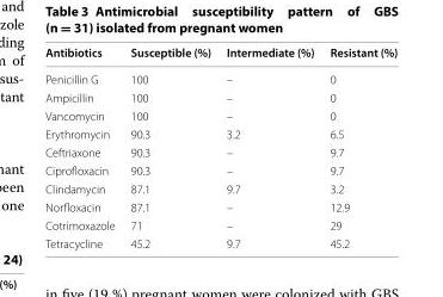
<table><thead><tr><td>Antibiotics</td><td>Susceptible (%)</td><td>Intermediate (%)</td><td>Resistant (%)</td></tr></thead><tbody><tr><td>Penicillin G</td><td>100</td><td>–</td><td>0</td></tr><tr><td>Ampicillin</td><td>100</td><td>–</td><td>0</td></tr><tr><td>Vancomycin</td><td>100</td><td>–</td><td>0</td></tr><tr><td>Erythromycin</td><td>90.3</td><td>3.2</td><td>6.5</td></tr><tr><td>Ceftriaxone</td><td>90.3</td><td>–</td><td>9.7</td></tr><tr><td>Ciprofloxacin</td><td>90.3</td><td>–</td><td>9.7</td></tr><tr><td>Clindamycin</td><td>87.1</td><td>9.7</td><td>3.2</td></tr><tr><td>Norfloxacin</td><td>87.1</td><td>–</td><td>12.9</td></tr><tr><td>Cotrimoxazole</td><td>71</td><td>–</td><td>29</td></tr><tr><td>Tetracycline</td><td>45.2</td><td>9.7</td><td>45.2</td></tr></tbody></table>